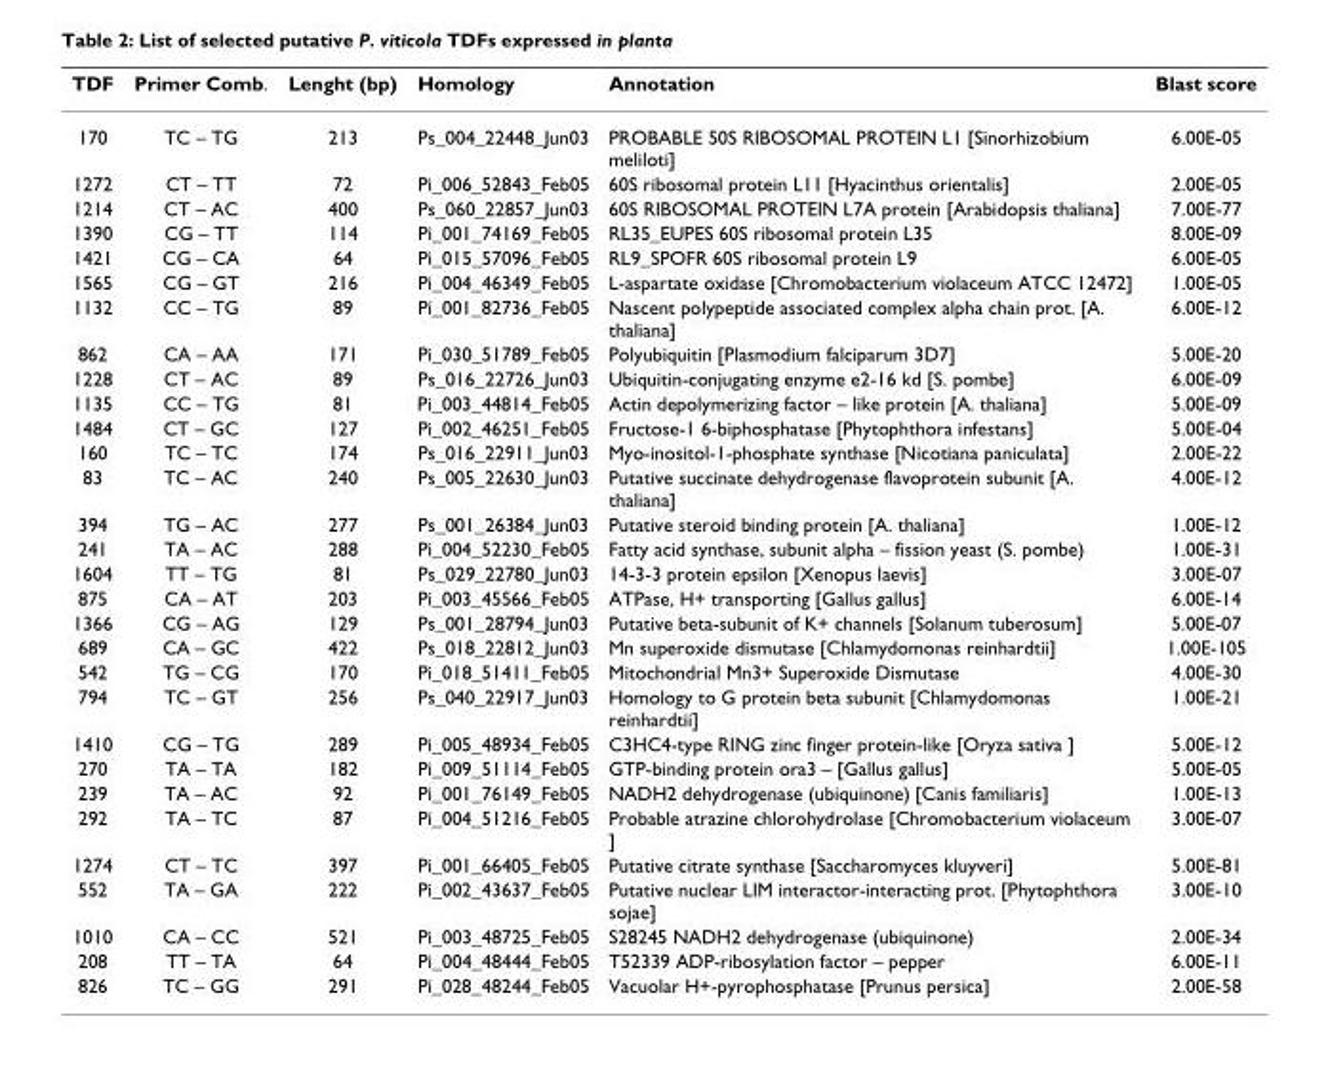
<table><thead><tr><td>TDF</td><td>Primer Comb.</td><td>Lenght (bp)</td><td>Homology</td><td>Annotation</td><td>Blast score</td></tr></thead><tbody><tr><td>170</td><td>TC – TG</td><td>213</td><td>Ps_004_22448_Jun03</td><td>PROBABLE 50S RIBOSOMAL PROTEIN L1 [Sinorhizobium meliloti]</td><td>6.00E-05</td></tr><tr><td>1272</td><td>CT – TT</td><td>72</td><td>Pi_006_52843_Feb05</td><td>60S ribosomal protein L11 [Hyacinthus orientalis]</td><td>2.00E-05</td></tr><tr><td>1214</td><td>CT – AC</td><td>400</td><td>Ps_060_22857_Jun03</td><td>60S RIBOSOMAL PROTEIN L7A protein [Arabidopsis thaliana]</td><td>7.00E-77</td></tr><tr><td>1390</td><td>CG – TT</td><td>114</td><td>Pi_001_74169_Feb05</td><td>RL35_EUPES 60S ribosomal protein L35</td><td>8.00E-09</td></tr><tr><td>1421</td><td>CG – CA</td><td>64</td><td>Pi_015_57096_Feb05</td><td>RL9_SPOFR 60S ribosomal protein L9</td><td>6.00E-05</td></tr><tr><td>1565</td><td>CG – GT</td><td>216</td><td>Pi_004_46349_Feb05</td><td>L-aspartate oxidase [Chromobacterium violaceum ATCC 12472]</td><td>1.00E-05</td></tr><tr><td>1132</td><td>CC – TG</td><td>89</td><td>Pi_001_82736_Feb05</td><td>Nascent polypeptide associated complex alpha chain prot. [A. thaliana]</td><td>6.00E-12</td></tr><tr><td>862</td><td>CA – AA</td><td>171</td><td>Pi_030_51789_Feb05</td><td>Polyubiquitin [Plasmodium falciparum 3D7]</td><td>5.00E-20</td></tr><tr><td>1228</td><td>CT – AC</td><td>89</td><td>Ps_016_22726_Jun03</td><td>Ubiquitin-conjugating enzyme e2-16 kd [S. pombe]</td><td>6.00E-09</td></tr><tr><td>1135</td><td>CC – TG</td><td>81</td><td>Pi_003_44814_Feb05</td><td>Actin depolymerizing factor – like protein [A. thaliana]</td><td>5.00E-09</td></tr><tr><td>1484</td><td>CT – GC</td><td>127</td><td>Pi_002_46251_Feb05</td><td>Fructose-1 6-biphosphatase [Phytophthora infestans]</td><td>5.00E-04</td></tr><tr><td>160</td><td>TC – TC</td><td>174</td><td>Ps_016_22911_Jun03</td><td>Myo-inositol-1-phosphate synthase [Nicotiana paniculata]</td><td>2.00E-22</td></tr><tr><td>83</td><td>TC – AC</td><td>240</td><td>Ps_005_22630_Jun03</td><td>Putative succinate dehydrogenase flavoprotein subunit [A. thaliana]</td><td>4.00E-12</td></tr><tr><td>394</td><td>TG – AC</td><td>277</td><td>Ps_001_26384_Jun03</td><td>Putative steroid binding protein [A. thaliana]</td><td>1.00E-12</td></tr><tr><td>241</td><td>TA – AC</td><td>288</td><td>Pi_004_52230_Feb05</td><td>Fatty acid synthase, subunit alpha – fission yeast (S. pombe)</td><td>1.00E-31</td></tr><tr><td>1604</td><td>TT – TG</td><td>81</td><td>Ps_029_22780_Jun03</td><td>14-3-3 protein epsilon [Xenopus laevis]</td><td>3.00E-07</td></tr><tr><td>875</td><td>CA – AT</td><td>203</td><td>Pi_003_45566_Feb05</td><td>ATPase, H+ transporting [Gallus gallus]</td><td>6.00E-14</td></tr><tr><td>1366</td><td>CG – AG</td><td>129</td><td>Ps_001_28794_Jun03</td><td>Putative beta-subunit of K+ channels [Solanum tuberosum]</td><td>5.00E-07</td></tr><tr><td>689</td><td>CA – GC</td><td>422</td><td>Ps_018_22812_Jun03</td><td>Mn superoxide dismutase [Chlamydomonas reinhardtii]</td><td>1.00E-105</td></tr><tr><td>542</td><td>TG – CG</td><td>170</td><td>Pi_018_51411_Feb05</td><td>Mitochondrial Mn3+ Superoxide Dismutase</td><td>4.00E-30</td></tr><tr><td>794</td><td>TC – GT</td><td>256</td><td>Ps_040_22917_Jun03</td><td>Homology to G protein beta subunit [Chlamydomonas reinhardtii]</td><td>1.00E-21</td></tr><tr><td>1410</td><td>CG – TG</td><td>289</td><td>Pi_005_48934_Feb05</td><td>C3HC4-type RING zinc finger protein-like [Oryza sativa ]</td><td>5.00E-12</td></tr><tr><td>270</td><td>TA – TA</td><td>182</td><td>Pi_009_51114_Feb05</td><td>GTP-binding protein ora3 – [Gallus gallus]</td><td>5.00E-05</td></tr><tr><td>239</td><td>TA – AC</td><td>92</td><td>Pi_001_76149_Feb05</td><td>NADH2 dehydrogenase (ubiquinone) [Canis familiaris]</td><td>1.00E-13</td></tr><tr><td>292</td><td>TA – TC</td><td>87</td><td>Pi_004_51216_Feb05</td><td>Probable atrazine chlorohydrolase [Chromobacterium violaceum ]</td><td>3.00E-07</td></tr><tr><td>1274</td><td>CT – TC</td><td>397</td><td>Pi_001_66405_Feb05</td><td>Putative citrate synthase [Saccharomyces kluyveri]</td><td>5.00E-81</td></tr><tr><td>552</td><td>TA – GA</td><td>222</td><td>Pi_002_43637_Feb05</td><td>Putative nuclear LIM interactor-interacting prot. [Phytophthora sojae]</td><td>3.00E-10</td></tr><tr><td>1010</td><td>CA – CC</td><td>521</td><td>Pi_003_48725_Feb05</td><td>S28245 NADH2 dehydrogenase (ubiquinone)</td><td>2.00E-34</td></tr><tr><td>208</td><td>TT – TA</td><td>64</td><td>Pi_004_48444_Feb05</td><td>T52339 ADP-ribosylation factor – pepper</td><td>6.00E-11</td></tr><tr><td>826</td><td>TC – GG</td><td>291</td><td>Pi_028_48244_Feb05</td><td>Vacuolar H+-pyrophosphatase [Prunus persica]</td><td>2.00E-58</td></tr></tbody></table>